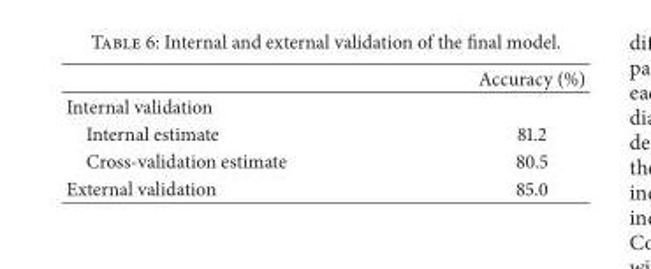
<table><thead><tr><td></td><td>Accuracy (%)</td></tr></thead><tbody><tr><td colspan="2">Internal validation</td></tr><tr><td>Internal estimate</td><td>81.2</td></tr><tr><td>Cross-validation estimate</td><td>80.5</td></tr><tr><td>External validation</td><td>85.0</td></tr></tbody></table>